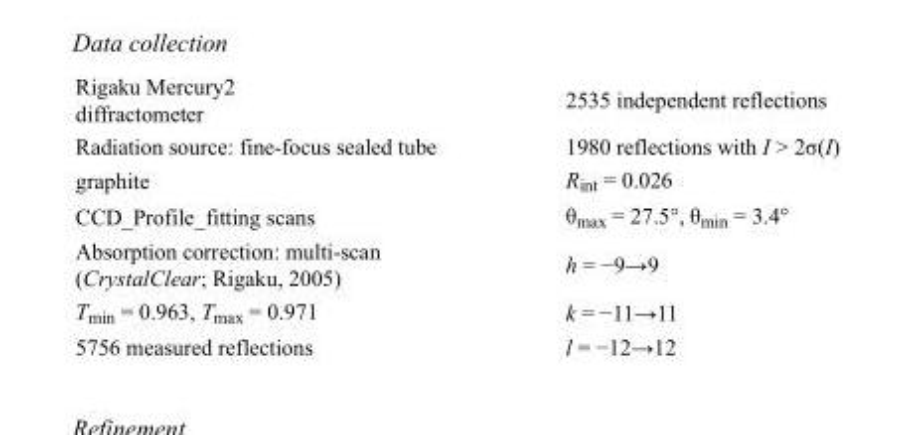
<table><tbody><tr><td>Rigaku Mercury2 diffractometer</td><td>2535 independent reflections</td></tr><tr><td>Radiation source: fine-focus sealed tube</td><td>1980 reflections with I &gt; 2σ(I)</td></tr><tr><td>graphite</td><td>R<sub>int</sub> = 0.026</td></tr><tr><td>CCD_Profile_fitting scans</td><td>θ<sub>max</sub> = 27.5°, θ<sub>min</sub> = 3.4°</td></tr><tr><td>Absorption correction: multi-scan (CrystalClear; Rigaku, 2005)</td><td>h = −9→9</td></tr><tr><td>T<sub>min</sub> = 0.963, T<sub>max</sub> = 0.971</td><td>k = −11→11</td></tr><tr><td>5756 measured reflections</td><td>l = −12→12</td></tr></tbody></table>